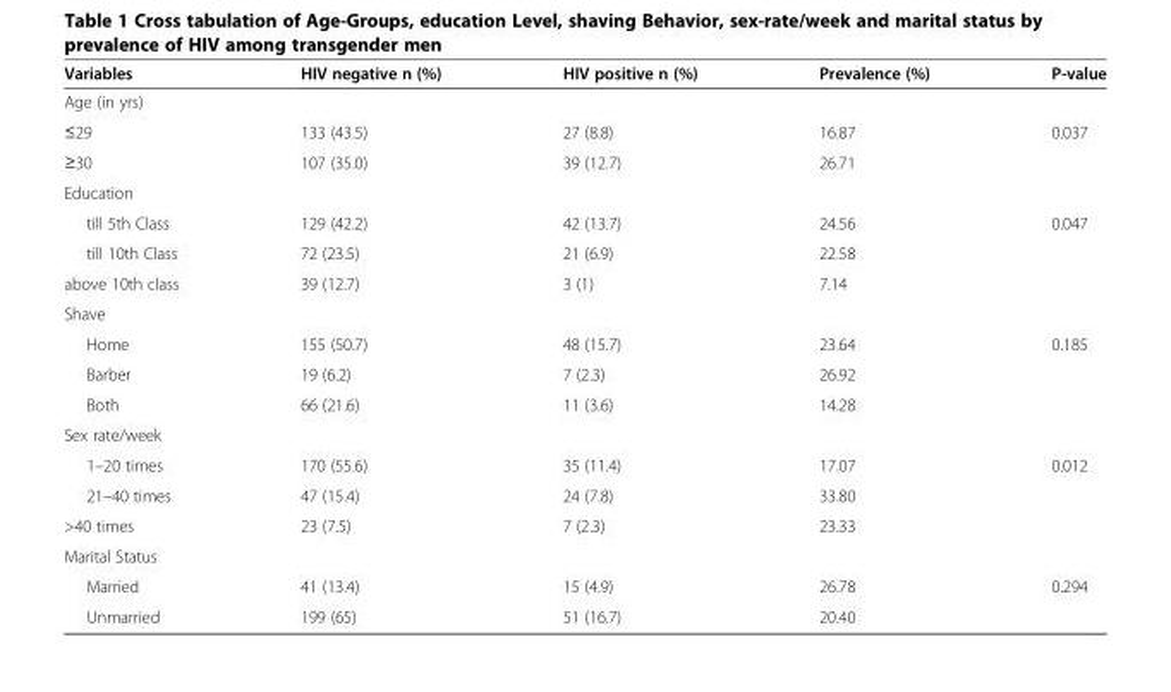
<table><thead><tr><td>Variables</td><td>HIV negative n (%)</td><td>HIV positive n (%)</td><td>Prevalence (%)</td><td>P-value</td></tr></thead><tbody><tr><td colspan="5">Age (in yrs)</td></tr><tr><td>≤29</td><td>133 (43.5)</td><td>27 (8.8)</td><td>16.87</td><td>0.037</td></tr><tr><td>≥30</td><td>107 (35.0)</td><td>39 (12.7)</td><td>26.71</td><td></td></tr><tr><td colspan="5">Education</td></tr><tr><td>till 5th Class</td><td>129 (42.2)</td><td>42 (13.7)</td><td>24.56</td><td>0.047</td></tr><tr><td>till 10th Class</td><td>72 (23.5)</td><td>21 (6.9)</td><td>22.58</td><td></td></tr><tr><td>above 10th class</td><td>39 (12.7)</td><td>3 (1)</td><td>7.14</td><td></td></tr><tr><td colspan="5">Shave</td></tr><tr><td>Home</td><td>155 (50.7)</td><td>48 (15.7)</td><td>23.64</td><td>0.185</td></tr><tr><td>Barber</td><td>19 (6.2)</td><td>7 (2.3)</td><td>26.92</td><td></td></tr><tr><td>Both</td><td>66 (21.6)</td><td>11 (3.6)</td><td>14.28</td><td></td></tr><tr><td colspan="5">Sex rate/week</td></tr><tr><td>1–20 times</td><td>170 (55.6)</td><td>35 (11.4)</td><td>17.07</td><td>0.012</td></tr><tr><td>21–40 times</td><td>47 (15.4)</td><td>24 (7.8)</td><td>33.80</td><td></td></tr><tr><td>&gt;40 times</td><td>23 (7.5)</td><td>7 (2.3)</td><td>23.33</td><td></td></tr><tr><td colspan="5">Marital Status</td></tr><tr><td>Married</td><td>41 (13.4)</td><td>15 (4.9)</td><td>26.78</td><td>0.294</td></tr><tr><td>Unmarried</td><td>199 (65)</td><td>51 (16.7)</td><td>20.40</td><td></td></tr></tbody></table>